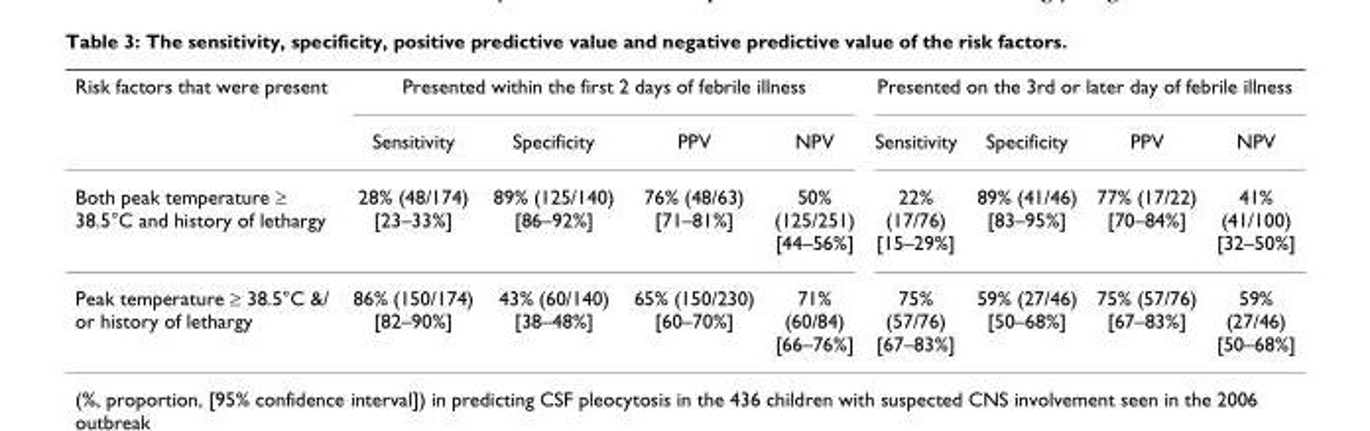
<table><tbody><tr><td rowspan="2">Risk factors that were present</td><td colspan="4">Presented within the first 2 days of febrile illness</td><td colspan="4">Presented on the 3rd or later day of febrile illness</td></tr><tr><td>Sensitivity</td><td>Specificity</td><td>PPV</td><td>NPV</td><td>Sensitivity</td><td>Specificity</td><td>PPV</td><td>NPV</td></tr><tr><td>Both peak temperature ≥ 38.5°C and history of lethargy</td><td>28% (48/174) [23–33%]</td><td>89% (125/140) [86–92%]</td><td>76% (48/63) [71–81%]</td><td>50% (125/251) [44–56%]</td><td>22% (17/76) [15–29%]</td><td>89% (41/46) [83–95%]</td><td>77% (17/22) [70–84%]</td><td>41% (41/100) [32–50%]</td></tr><tr><td>Peak temperature ≥ 38.5°C &amp;/ or history of lethargy</td><td>86% (150/174) [82–90%]</td><td>43% (60/140) [38–48%]</td><td>65% (150/230) [60–70%]</td><td>71% (60/84) [66–76%]</td><td>75% (57/76) [67–83%]</td><td>59% (27/46) [50–68%]</td><td>75% (57/76) [67–83%]</td><td>59% (27/46) [50–68%]</td></tr></tbody></table>